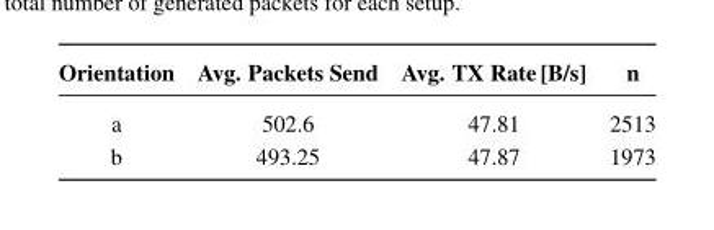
<table><thead><tr><td>Orientation</td><td>Avg. Packets Send</td><td>Avg. TX Rate [B/s]</td><td>n</td></tr></thead><tbody><tr><td>a</td><td>502.6</td><td>47.81</td><td>2513</td></tr><tr><td>b</td><td>493.25</td><td>47.87</td><td>1973</td></tr></tbody></table>